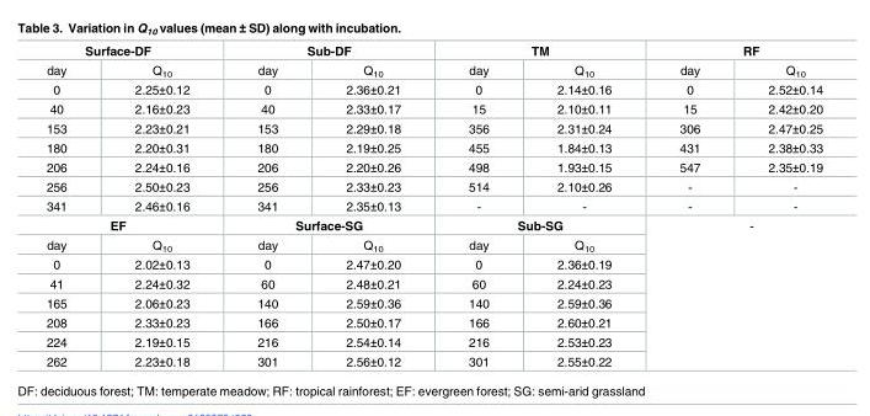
<table><tbody><tr><td colspan="2">Surface-DF</td><td colspan="2">Sub-DF</td><td colspan="2">TM</td><td colspan="2">RF</td></tr><tr><td>day</td><td>Q<sub>10</sub></td><td>day</td><td>Q<sub>10</sub></td><td>day</td><td>Q<sub>10</sub></td><td>day</td><td>Q<sub>10</sub></td></tr><tr><td>0</td><td>2.25±0.12</td><td>0</td><td>2.36±0.21</td><td>0</td><td>2.14±0.16</td><td>0</td><td>2.52±0.14</td></tr><tr><td>40</td><td>2.16±0.23</td><td>40</td><td>2.33±0.17</td><td>15</td><td>2.10±0.11</td><td>15</td><td>2.42±0.20</td></tr><tr><td>153</td><td>2.23±0.21</td><td>153</td><td>2.29±0.18</td><td>356</td><td>2.31±0.24</td><td>306</td><td>2.47±0.25</td></tr><tr><td>180</td><td>2.20±0.31</td><td>180</td><td>2.19±0.25</td><td>455</td><td>1.84±0.13</td><td>431</td><td>2.38±0.33</td></tr><tr><td>206</td><td>2.24±0.16</td><td>206</td><td>2.20±0.26</td><td>498</td><td>1.93±0.15</td><td>547</td><td>2.35±0.19</td></tr><tr><td>256</td><td>2.50±0.23</td><td>256</td><td>2.33±0.23</td><td>514</td><td>2.10±0.26</td><td>-</td><td>-</td></tr><tr><td>341</td><td>2.46±0.16</td><td>341</td><td>2.35±0.13</td><td>-</td><td>-</td><td>-</td><td>-</td></tr><tr><td colspan="2">EF</td><td colspan="2">Surface-SG</td><td colspan="2">Sub-SG</td><td rowspan="8" colspan="2">-</td></tr><tr><td>day</td><td>Q<sub>10</sub></td><td>day</td><td>Q<sub>10</sub></td><td>day</td><td>Q<sub>10</sub></td></tr><tr><td>0</td><td>2.02±0.13</td><td>0</td><td>2.47±0.20</td><td>0</td><td>2.36±0.19</td></tr><tr><td>41</td><td>2.24±0.32</td><td>60</td><td>2.48±0.21</td><td>60</td><td>2.24±0.23</td></tr><tr><td>165</td><td>2.06±0.23</td><td>140</td><td>2.59±0.36</td><td>140</td><td>2.59±0.36</td></tr><tr><td>208</td><td>2.33±0.23</td><td>166</td><td>2.50±0.17</td><td>166</td><td>2.60±0.21</td></tr><tr><td>224</td><td>2.19±0.15</td><td>216</td><td>2.54±0.14</td><td>216</td><td>2.53±0.23</td></tr><tr><td>262</td><td>2.23±0.18</td><td>301</td><td>2.56±0.12</td><td>301</td><td>2.55±0.22</td></tr></tbody></table>